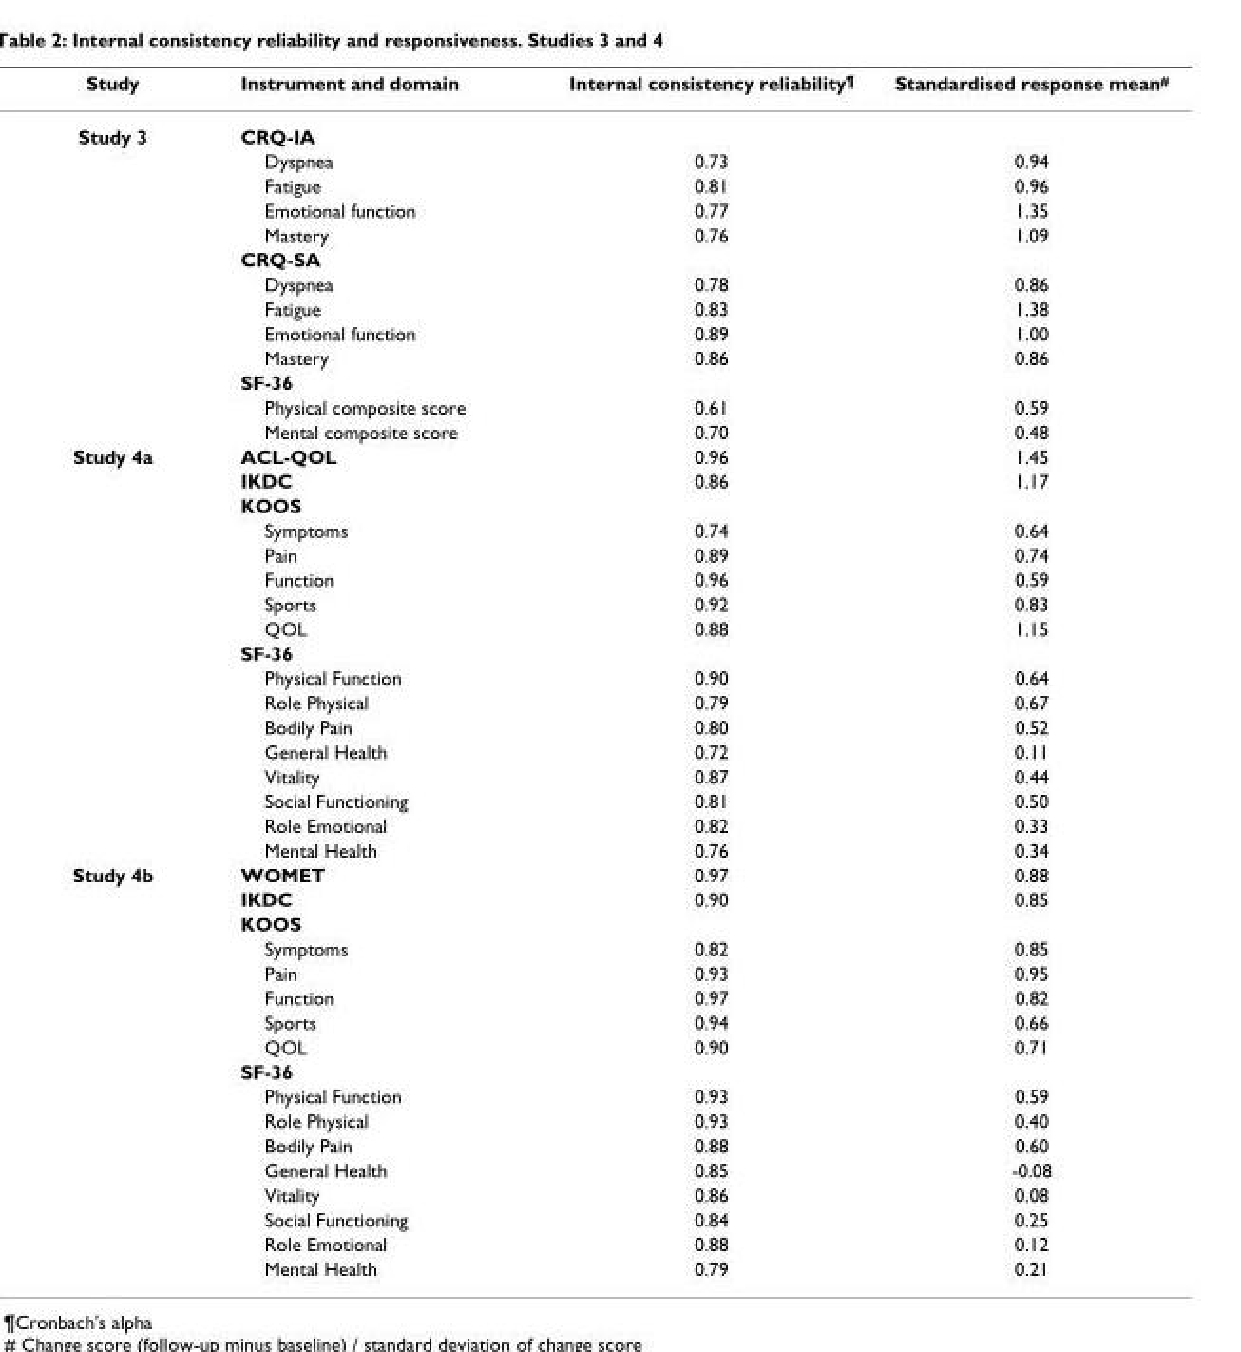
<table><thead><tr><td>Study</td><td>Instrument and domain</td><td>Internal consistency reliability<sup>¶</sup></td><td>Standardised response mean<sup>#</sup></td></tr></thead><tbody><tr><td rowspan="13">Study 3</td><td>CRQ-IA</td><td></td><td></td></tr><tr><td>Dyspnea</td><td>0.73</td><td>0.94</td></tr><tr><td>Fatigue</td><td>0.81</td><td>0.96</td></tr><tr><td>Emotional function</td><td>0.77</td><td>1.35</td></tr><tr><td>Mastery</td><td>0.76</td><td>1.09</td></tr><tr><td>CRQ-SA</td><td></td><td></td></tr><tr><td>Dyspnea</td><td>0.78</td><td>0.86</td></tr><tr><td>Fatigue</td><td>0.83</td><td>1.38</td></tr><tr><td>Emotional function</td><td>0.89</td><td>1.00</td></tr><tr><td>Mastery</td><td>0.86</td><td>0.86</td></tr><tr><td>SF-36</td><td></td><td></td></tr><tr><td>Physical composite score</td><td>0.61</td><td>0.59</td></tr><tr><td>Mental composite score</td><td>0.70</td><td>0.48</td></tr><tr><td rowspan="17">Study 4a</td><td>ACL-QOL</td><td>0.96</td><td>1.45</td></tr><tr><td>IKDC</td><td>0.86</td><td>1.17</td></tr><tr><td>KOOS</td><td></td><td></td></tr><tr><td>Symptoms</td><td>0.74</td><td>0.64</td></tr><tr><td>Pain</td><td>0.89</td><td>0.74</td></tr><tr><td>Function</td><td>0.96</td><td>0.59</td></tr><tr><td>Sports</td><td>0.92</td><td>0.83</td></tr><tr><td>QOL</td><td>0.88</td><td>1.15</td></tr><tr><td>SF-36</td><td></td><td></td></tr><tr><td>Physical Function</td><td>0.90</td><td>0.64</td></tr><tr><td>Role Physical</td><td>0.79</td><td>0.67</td></tr><tr><td>Bodily Pain</td><td>0.80</td><td>0.52</td></tr><tr><td>General Health</td><td>0.72</td><td>0.11</td></tr><tr><td>Vitality</td><td>0.87</td><td>0.44</td></tr><tr><td>Social Functioning</td><td>0.81</td><td>0.50</td></tr><tr><td>Role Emotional</td><td>0.82</td><td>0.33</td></tr><tr><td>Mental Health</td><td>0.76</td><td>0.34</td></tr><tr><td rowspan="17">Study 4b</td><td>WOMET</td><td>0.97</td><td>0.88</td></tr><tr><td>IKDC</td><td>0.90</td><td>0.85</td></tr><tr><td>KOOS</td><td></td><td></td></tr><tr><td>Symptoms</td><td>0.82</td><td>0.85</td></tr><tr><td>Pain</td><td>0.93</td><td>0.95</td></tr><tr><td>Function</td><td>0.97</td><td>0.82</td></tr><tr><td>Sports</td><td>0.94</td><td>0.66</td></tr><tr><td>QOL</td><td>0.90</td><td>0.71</td></tr><tr><td>SF-36</td><td></td><td></td></tr><tr><td>Physical Function</td><td>0.93</td><td>0.59</td></tr><tr><td>Role Physical</td><td>0.93</td><td>0.40</td></tr><tr><td>Bodily Pain</td><td>0.88</td><td>0.60</td></tr><tr><td>General Health</td><td>0.85</td><td>-0.08</td></tr><tr><td>Vitality</td><td>0.86</td><td>0.08</td></tr><tr><td>Social Functioning</td><td>0.84</td><td>0.25</td></tr><tr><td>Role Emotional</td><td>0.88</td><td>0.12</td></tr><tr><td>Mental Health</td><td>0.79</td><td>0.21</td></tr></tbody></table>